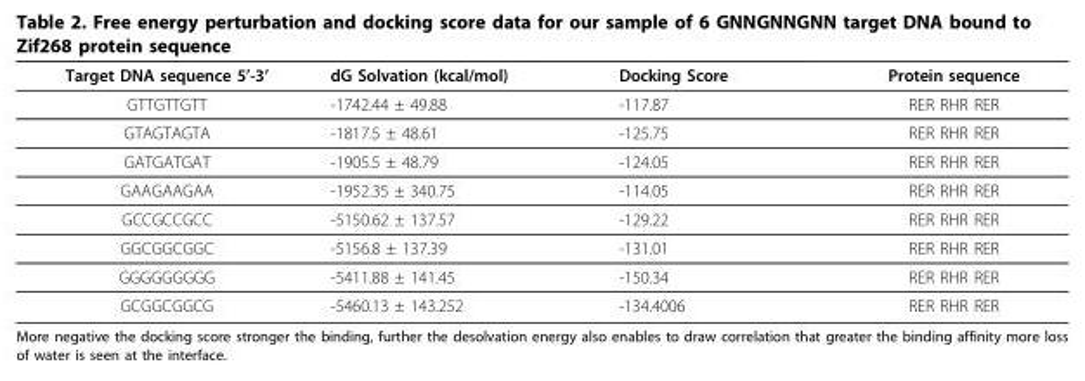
<table><thead><tr><td>Target DNA sequence 5’-3’</td><td>dG Solvation (kcal/mol)</td><td>Docking Score</td><td>Protein sequence</td></tr></thead><tbody><tr><td>GTTGTTGTT</td><td>-1742.44 ± 49.88</td><td>-117.87</td><td>RER RHR RER</td></tr><tr><td>GTAGTAGTA</td><td>-1817.5 ± 48.61</td><td>-125.75</td><td>RER RHR RER</td></tr><tr><td>GATGATGAT</td><td>-1905.5 ± 48.79</td><td>-124.05</td><td>RER RHR RER</td></tr><tr><td>GAAGAAGAA</td><td>-1952.35 ± 340.75</td><td>-114.05</td><td>RER RHR RER</td></tr><tr><td>GCCGCCGCC</td><td>-5150.62 ± 137.57</td><td>-129.22</td><td>RER RHR RER</td></tr><tr><td>GGCGGCGGC</td><td>-5156.8 ± 137.39</td><td>-131.01</td><td>RER RHR RER</td></tr><tr><td>GGGGGGGGG</td><td>-5411.88 ± 141.45</td><td>-150.34</td><td>RER RHR RER</td></tr><tr><td>GCGGCGGCG</td><td>-5460.13 ± 143.252</td><td>-134.4006</td><td>RER RHR RER</td></tr></tbody></table>